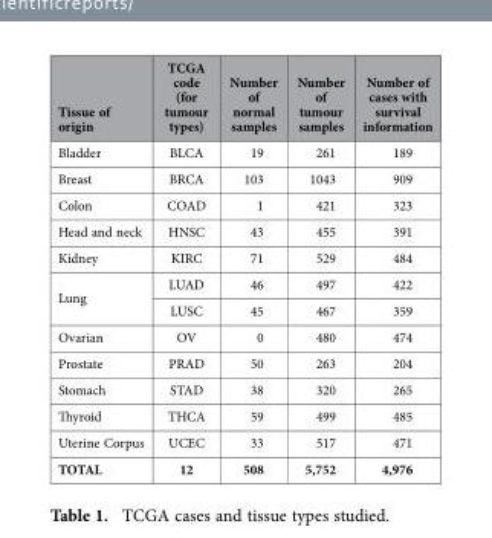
<table><thead><tr><td>Tissue of origin</td><td>TCGA code (for tumour types)</td><td>Number of normal samples</td><td>Number of tumour samples</td><td>Number of cases with survival information</td></tr></thead><tbody><tr><td>Bladder</td><td>BLCA</td><td>19</td><td>261</td><td>189</td></tr><tr><td>Breast</td><td>BRCA</td><td>103</td><td>1043</td><td>909</td></tr><tr><td>Colon</td><td>COAD</td><td>1</td><td>421</td><td>323</td></tr><tr><td>Head and neck</td><td>HNSC</td><td>43</td><td>455</td><td>391</td></tr><tr><td>Kidney</td><td>KIRC</td><td>71</td><td>529</td><td>484</td></tr><tr><td rowspan="2">Lung</td><td>LUAD</td><td>46</td><td>497</td><td>422</td></tr><tr><td>LUSC</td><td>45</td><td>467</td><td>359</td></tr><tr><td>Ovarian</td><td>OV</td><td>0</td><td>480</td><td>474</td></tr><tr><td>Prostate</td><td>PRAD</td><td>50</td><td>263</td><td>204</td></tr><tr><td>Stomach</td><td>STAD</td><td>38</td><td>320</td><td>265</td></tr><tr><td>Thyroid</td><td>THCA</td><td>59</td><td>499</td><td>485</td></tr><tr><td>Uterine Corpus</td><td>UCEC</td><td>33</td><td>517</td><td>471</td></tr><tr><td>TOTAL</td><td>12</td><td>508</td><td>5,752</td><td>4,976</td></tr></tbody></table>